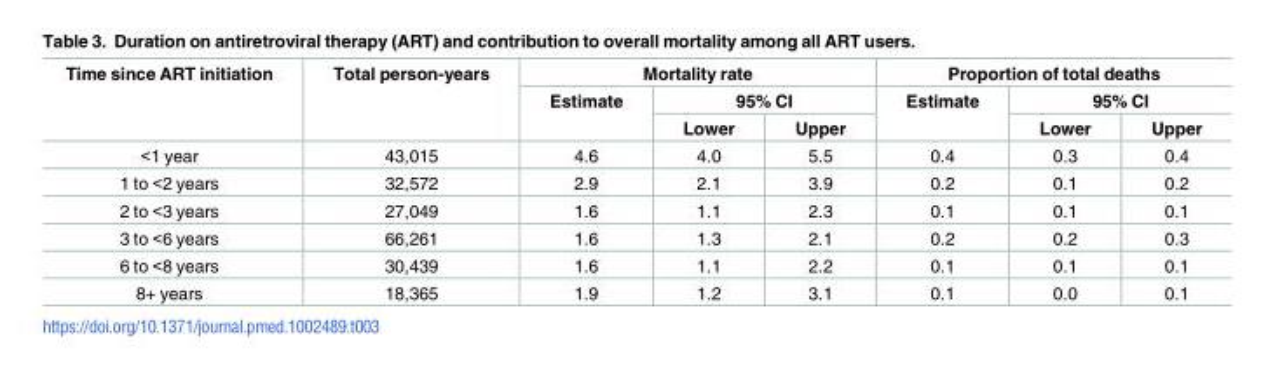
<table><thead><tr><td rowspan="3">Time since ART initiation</td><td rowspan="3">Total person-years</td><td colspan="3">Mortality rate</td><td colspan="3">Proportion of total deaths</td></tr><tr><td rowspan="2">Estimate</td><td colspan="2">95% CI</td><td rowspan="2">Estimate</td><td colspan="2">95% CI</td></tr><tr><td>Lower</td><td>Upper</td><td>Lower</td><td>Upper</td></tr></thead><tbody><tr><td>&lt;1 year</td><td>43,015</td><td>4.6</td><td>4.0</td><td>5.5</td><td>0.4</td><td>0.3</td><td>0.4</td></tr><tr><td>1 to &lt;2 years</td><td>32,572</td><td>2.9</td><td>2.1</td><td>3.9</td><td>0.2</td><td>0.1</td><td>0.2</td></tr><tr><td>2 to &lt;3 years</td><td>27,049</td><td>1.6</td><td>1.1</td><td>2.3</td><td>0.1</td><td>0.1</td><td>0.1</td></tr><tr><td>3 to &lt;6 years</td><td>66,261</td><td>1.6</td><td>1.3</td><td>2.1</td><td>0.2</td><td>0.2</td><td>0.3</td></tr><tr><td>6 to &lt;8 years</td><td>30,439</td><td>1.6</td><td>1.1</td><td>2.2</td><td>0.1</td><td>0.1</td><td>0.1</td></tr><tr><td>8+ years</td><td>18,365</td><td>1.9</td><td>1.2</td><td>3.1</td><td>0.1</td><td>0.0</td><td>0.1</td></tr></tbody></table>